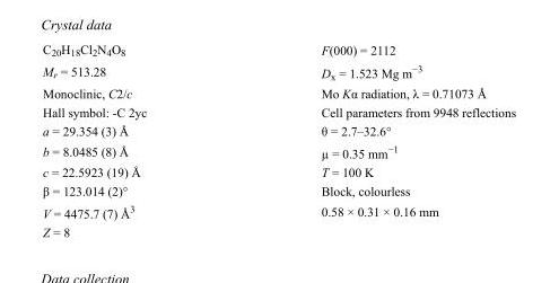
<table><tbody><tr><td>C<sub>20</sub>H<sub>18</sub>Cl<sub>2</sub>N<sub>4</sub>O<sub>8</sub></td><td>F(000) = 2112</td></tr><tr><td>M<sub>r</sub> = 513.28</td><td>D<sub>x</sub> = 1.523 Mg m<sup>−3</sup></td></tr><tr><td>Monoclinic, C2/c</td><td>Mo Kα radiation, λ = 0.71073 Å</td></tr><tr><td>Hall symbol: -C 2yc</td><td>Cell parameters from 9948 reflections</td></tr><tr><td>a = 29.354 (3) Å</td><td>θ = 2.7–32.6°</td></tr><tr><td>b = 8.0485 (8) Å</td><td>µ = 0.35 mm<sup>−1</sup></td></tr><tr><td>c = 22.5923 (19) Å</td><td>T = 100 K</td></tr><tr><td>β = 123.014 (2)°</td><td>Block, colourless</td></tr><tr><td>V = 4475.7 (7) Å<sup>3</sup></td><td>0.58 × 0.31 × 0.16 mm</td></tr><tr><td>Z = 8</td><td></td></tr></tbody></table>